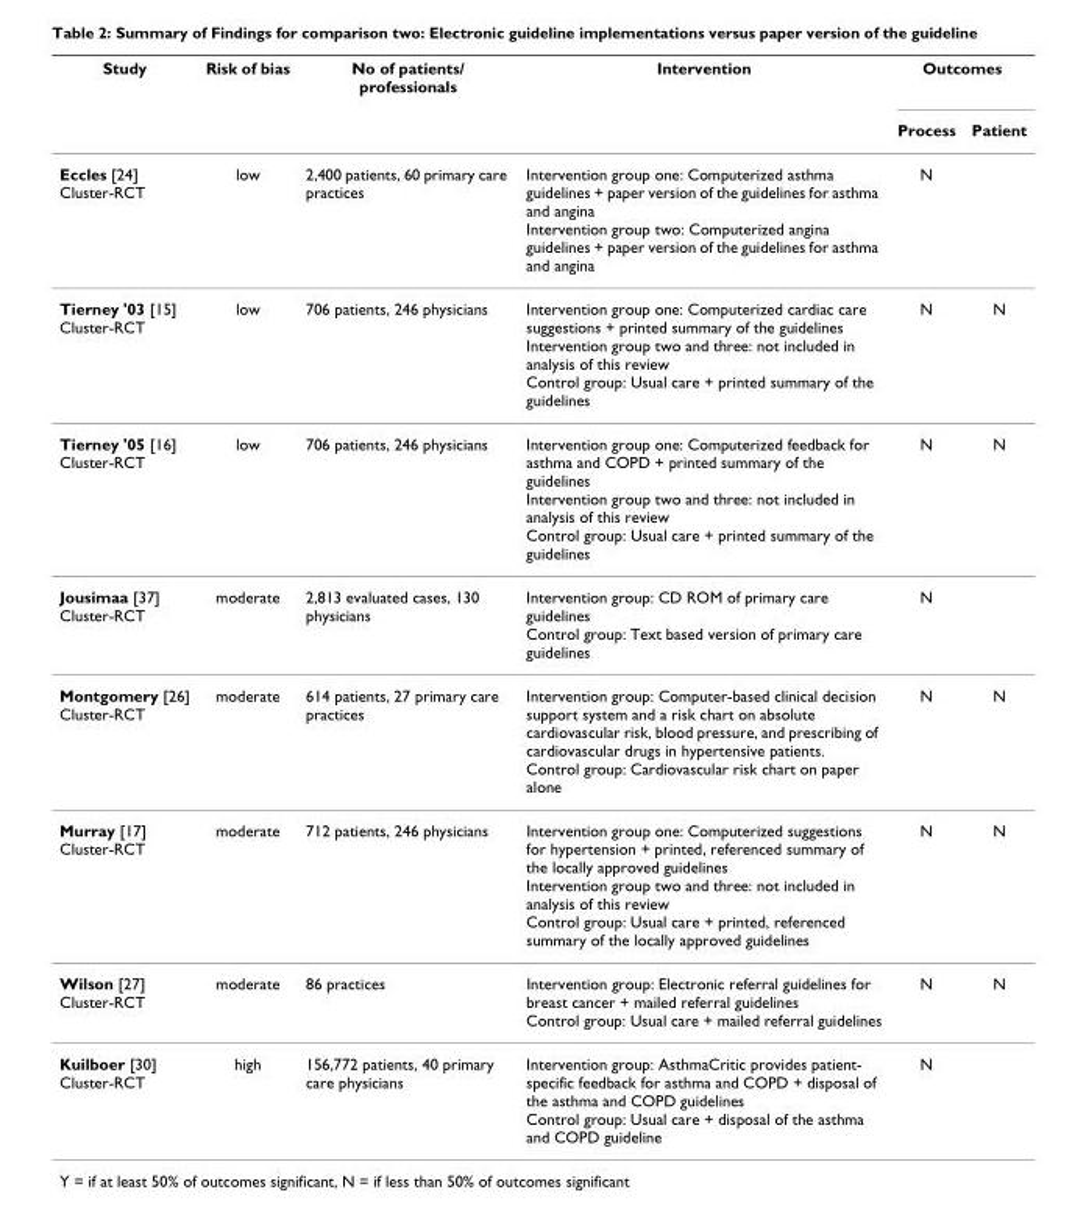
<table><thead><tr><td rowspan="2">Study</td><td rowspan="2">Risk of bias</td><td rowspan="2">No of patients/ professionals</td><td rowspan="2">Intervention</td><td colspan="2">Outcomes</td></tr><tr><td>Process</td><td>Patient</td></tr></thead><tbody><tr><td>Eccles [24] Cluster-RCT</td><td>low</td><td>2,400 patients, 60 primary care practices</td><td>Intervention group one: Computerized asthma guidelines + paper version of the guidelines for asthma and angina Intervention group two: Computerized angina guidelines + paper version of the guidelines for asthma and angina</td><td>N</td><td></td></tr><tr><td>Tierney &#x27;03 [15] Cluster-RCT</td><td>low</td><td>706 patients, 246 physicians</td><td>Intervention group one: Computerized cardiac care suggestions + printed summary of the guidelines Intervention group two and three: not included in analysis of this review Control group: Usual care + printed summary of the guidelines</td><td>N</td><td>N</td></tr><tr><td>Tierney &#x27;05 [16] Cluster-RCT</td><td>low</td><td>706 patients, 246 physicians</td><td>Intervention group one: Computerized feedback for asthma and COPD + printed summary of the guidelines Intervention group two and three: not included in analysis of this review Control group: Usual care + printed summary of the guidelines</td><td>N</td><td>N</td></tr><tr><td>Jousimaa [37] Cluster-RCT</td><td>moderate</td><td>2,813 evaluated cases, 130 physicians</td><td>Intervention group: CD ROM of primary care guidelines Control group: Text based version of primary care guidelines</td><td>N</td><td></td></tr><tr><td>Montgomery [26] Cluster-RCT</td><td>moderate</td><td>614 patients, 27 primary care practices</td><td>Intervention group: Computer-based clinical decision support system and a risk chart on absolute cardiovascular risk, blood pressure, and prescribing of cardiovascular drugs in hypertensive patients. Control group: Cardiovascular risk chart on paper alone</td><td>N</td><td>N</td></tr><tr><td>Murray [17] Cluster-RCT</td><td>moderate</td><td>712 patients, 246 physicians</td><td>Intervention group one: Computerized suggestions for hypertension + printed, referenced summary of the locally approved guidelines Intervention group two and three: not included in analysis of this review Control group: Usual care + printed, referenced summary of the locally approved guidelines</td><td>N</td><td>N</td></tr><tr><td>Wilson [27] Cluster-RCT</td><td>moderate</td><td>86 practices</td><td>Intervention group: Electronic referral guidelines for breast cancer + mailed referral guidelines Control group: Usual care + mailed referral guidelines</td><td>N</td><td>N</td></tr><tr><td>Kuilboer [30] Cluster-RCT</td><td>high</td><td>156,772 patients, 40 primary care physicians</td><td>Intervention group: AsthmaCritic provides patient- specific feedback for asthma and COPD + disposal of the asthma and COPD guidelines Control group: Usual care + disposal of the asthma and COPD guideline</td><td>N</td><td></td></tr></tbody></table>